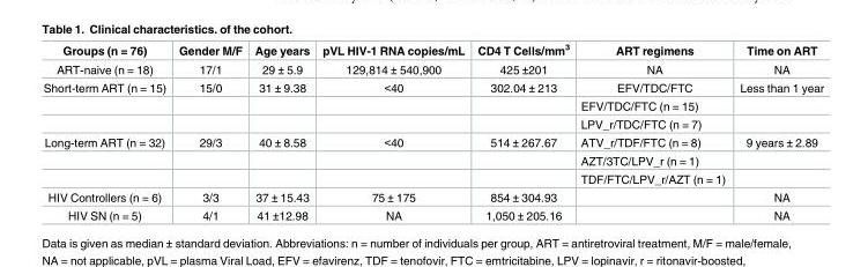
<table><thead><tr><td>Groups (n = 76)</td><td>Gender M/F</td><td>Age years</td><td>pVL HIV-1 RNA copies/mL</td><td>CD4 T Cells/mm<sup>3</sup></td><td>ART regimens</td><td>Time on ART</td></tr></thead><tbody><tr><td>ART-naive (n = 18)</td><td>17/1</td><td>29 ± 5.9</td><td>129,814 ± 540,900</td><td>425 ±201</td><td>NA</td><td>NA</td></tr><tr><td rowspan="3">Short-term ART (n = 15)</td><td>15/0</td><td>31 ± 9.38</td><td>&lt;40</td><td>302.04 ± 213</td><td>EFV/TDC/FTC</td><td>Less than 1 year</td></tr><tr><td></td><td></td><td></td><td></td><td>EFV/TDC/FTC (n = 15)</td><td></td></tr><tr><td></td><td></td><td></td><td></td><td>LPV_r/TDC/FTC (n = 7)</td><td></td></tr><tr><td rowspan="3">Long-term ART (n = 32)</td><td>29/3</td><td>40 ± 8.58</td><td>&lt;40</td><td>514 ± 267.67</td><td>ATV_r/TDF/FTC (n = 8)</td><td>9 years ± 2.89</td></tr><tr><td></td><td></td><td></td><td></td><td>AZT/3TC/LPV_r (n = 1)</td><td></td></tr><tr><td></td><td></td><td></td><td></td><td>TDF/FTC/LPV_r/AZT (n = 1)</td><td></td></tr><tr><td>HIV Controllers (n = 6)</td><td>3/3</td><td>37 ± 15.43</td><td>75 ± 175</td><td>854 ± 304.93</td><td></td><td>NA</td></tr><tr><td>HIV SN (n = 5)</td><td>4/1</td><td>41 ±12.98</td><td>NA</td><td>1,050 ± 205.16</td><td></td><td>NA</td></tr></tbody></table>